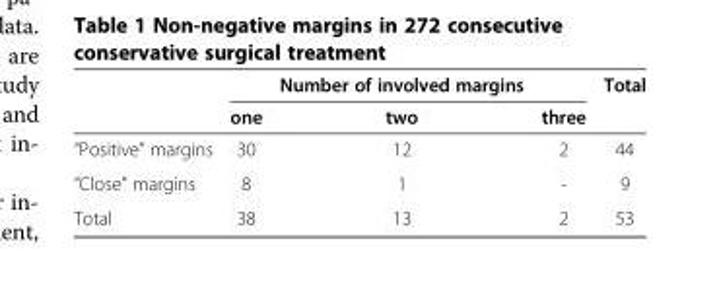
<table><thead><tr><td rowspan="2"></td><td colspan="3">Number of involved margins</td><td rowspan="2">Total</td></tr><tr><td>one</td><td>two</td><td>three</td></tr></thead><tbody><tr><td>“Positive” margins</td><td>30</td><td>12</td><td>2</td><td>44</td></tr><tr><td>“Close” margins</td><td>8</td><td>1</td><td>-</td><td>9</td></tr><tr><td>Total</td><td>38</td><td>13</td><td>2</td><td>53</td></tr></tbody></table>